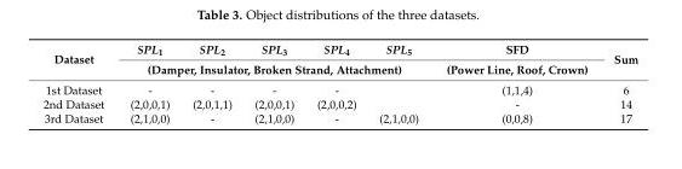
<table><thead><tr><td rowspan="2">Dataset</td><td>SPL<sub>1</sub></td><td>SPL<sub>2</sub></td><td>SPL<sub>3</sub></td><td>SPL<sub>4</sub></td><td>SPL<sub>5</sub></td><td rowspan="2">SFD (Power Line, Roof, Crown)</td><td rowspan="2">Sum</td></tr><tr><td colspan="5">(Damper, Insulator, Broken Strand, Attachment)</td></tr></thead><tbody><tr><td>1st Dataset</td><td>-</td><td>-</td><td>-</td><td>-</td><td></td><td>(1,1,4)</td><td>6</td></tr><tr><td>2nd Dataset</td><td>(2,0,0,1)</td><td>(2,0,1,1)</td><td>(2,0,0,1)</td><td>(2,0,0,2)</td><td></td><td>-</td><td>14</td></tr><tr><td>3rd Dataset</td><td>(2,1,0,0)</td><td>-</td><td>(2,1,0,0)</td><td>-</td><td>(2,1,0,0)</td><td>(0,0,8)</td><td>17</td></tr></tbody></table>